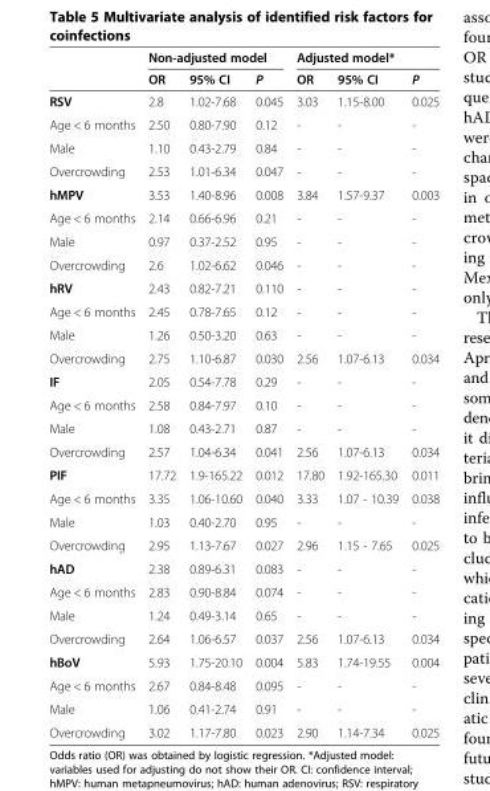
<table><thead><tr><td rowspan="2"></td><td colspan="3">Non-adjusted model</td><td colspan="3">Adjusted model*</td></tr><tr><td>OR</td><td>95% CI</td><td>P</td><td>OR</td><td>95% CI</td><td>P</td></tr></thead><tbody><tr><td>RSV</td><td>2.8</td><td>1.02-7.68</td><td>0.045</td><td>3.03</td><td>1.15-8.00</td><td>0.025</td></tr><tr><td>Age &lt; 6 months</td><td>2.50</td><td>0.80-7.90</td><td>0.12</td><td>-</td><td>-</td><td>-</td></tr><tr><td>Male</td><td>1.10</td><td>0.43-2.79</td><td>0.84</td><td>-</td><td>-</td><td>-</td></tr><tr><td>Overcrowding</td><td>2.53</td><td>1.01-6.34</td><td>0.047</td><td>-</td><td>-</td><td>-</td></tr><tr><td>hMPV</td><td>3.53</td><td>1.40-8.96</td><td>0.008</td><td>3.84</td><td>1.57-9.37</td><td>0.003</td></tr><tr><td>Age &lt; 6 months</td><td>2.14</td><td>0.66-6.96</td><td>0.21</td><td>-</td><td>-</td><td>-</td></tr><tr><td>Male</td><td>0.97</td><td>0.37-2.52</td><td>0.95</td><td>-</td><td>-</td><td>-</td></tr><tr><td>Overcrowding</td><td>2.6</td><td>1.02-6.62</td><td>0.046</td><td>-</td><td>-</td><td>-</td></tr><tr><td>hRV</td><td>2.43</td><td>0.82-7.21</td><td>0.110</td><td>-</td><td>-</td><td>-</td></tr><tr><td>Age &lt; 6 months</td><td>2.45</td><td>0.78-7.65</td><td>0.12</td><td>-</td><td>-</td><td>-</td></tr><tr><td>Male</td><td>1.26</td><td>0.50-3.20</td><td>0.63</td><td>-</td><td>-</td><td>-</td></tr><tr><td>Overcrowding</td><td>2.75</td><td>1.10-6.87</td><td>0.030</td><td>2.56</td><td>1.07-6.13</td><td>0.034</td></tr><tr><td>IF</td><td>2.05</td><td>0.54-7.78</td><td>0.29</td><td>-</td><td>-</td><td>-</td></tr><tr><td>Age &lt; 6 months</td><td>2.58</td><td>0.84-7.97</td><td>0.10</td><td>-</td><td>-</td><td>-</td></tr><tr><td>Male</td><td>1.08</td><td>0.43-2.71</td><td>0.87</td><td>-</td><td>-</td><td>-</td></tr><tr><td>Overcrowding</td><td>2.57</td><td>1.04-6.34</td><td>0.041</td><td>2.56</td><td>1.07-6.13</td><td>0.034</td></tr><tr><td>PIF</td><td>17.72</td><td>1.9-165.22</td><td>0.012</td><td>17.80</td><td>1.92-165.30</td><td>0.011</td></tr><tr><td>Age &lt; 6 months</td><td>3.35</td><td>1.06-10.60</td><td>0.040</td><td>3.33</td><td>1.07 - 10.39</td><td>0.038</td></tr><tr><td>Male</td><td>1.03</td><td>0.40-2.70</td><td>0.95</td><td>-</td><td>-</td><td>-</td></tr><tr><td>Overcrowding</td><td>2.95</td><td>1.13-7.67</td><td>0.027</td><td>2.96</td><td>1.15 - 7.65</td><td>0.025</td></tr><tr><td>hAD</td><td>2.38</td><td>0.89-6.31</td><td>0.083</td><td>-</td><td>-</td><td>-</td></tr><tr><td>Age &lt; 6 months</td><td>2.83</td><td>0.90-8.84</td><td>0.074</td><td>-</td><td>-</td><td>-</td></tr><tr><td>Male</td><td>1.24</td><td>0.49-3.14</td><td>0.65</td><td>-</td><td>-</td><td>-</td></tr><tr><td>Overcrowding</td><td>2.64</td><td>1.06-6.57</td><td>0.037</td><td>2.56</td><td>1.07-6.13</td><td>0.034</td></tr><tr><td>hBoV</td><td>5.93</td><td>1.75-20.10</td><td>0.004</td><td>5.83</td><td>1.74-19.55</td><td>0.004</td></tr><tr><td>Age &lt; 6 months</td><td>2.67</td><td>0.84-8.48</td><td>0.095</td><td>-</td><td>-</td><td>-</td></tr><tr><td>Male</td><td>1.06</td><td>0.41-2.74</td><td>0.91</td><td>-</td><td>-</td><td>-</td></tr><tr><td>Overcrowding</td><td>3.02</td><td>1.17-7.80</td><td>0.023</td><td>2.90</td><td>1.14-7.34</td><td>0.025</td></tr></tbody></table>